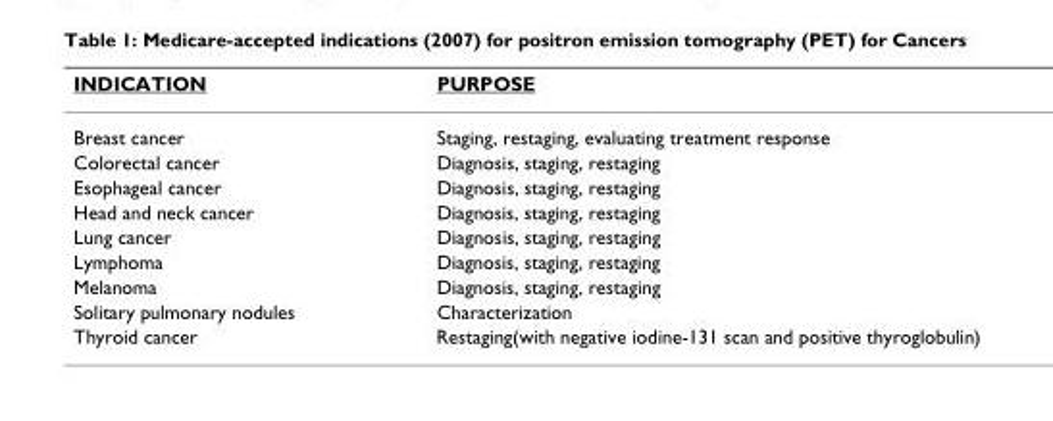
<table><thead><tr><td>INDICATION</td><td>PURPOSE</td></tr></thead><tbody><tr><td>Breast cancer</td><td>Staging, restaging, evaluating treatment response</td></tr><tr><td>Colorectal cancer</td><td>Diagnosis, staging, restaging</td></tr><tr><td>Esophageal cancer</td><td>Diagnosis, staging, restaging</td></tr><tr><td>Head and neck cancer</td><td>Diagnosis, staging, restaging</td></tr><tr><td>Lung cancer</td><td>Diagnosis, staging, restaging</td></tr><tr><td>Lymphoma</td><td>Diagnosis, staging, restaging</td></tr><tr><td>Melanoma</td><td>Diagnosis, staging, restaging</td></tr><tr><td>Solitary pulmonary nodules</td><td>Characterization</td></tr><tr><td>Thyroid cancer</td><td>Restaging(with negative iodine-131 scan and positive thyroglobulin)</td></tr></tbody></table>